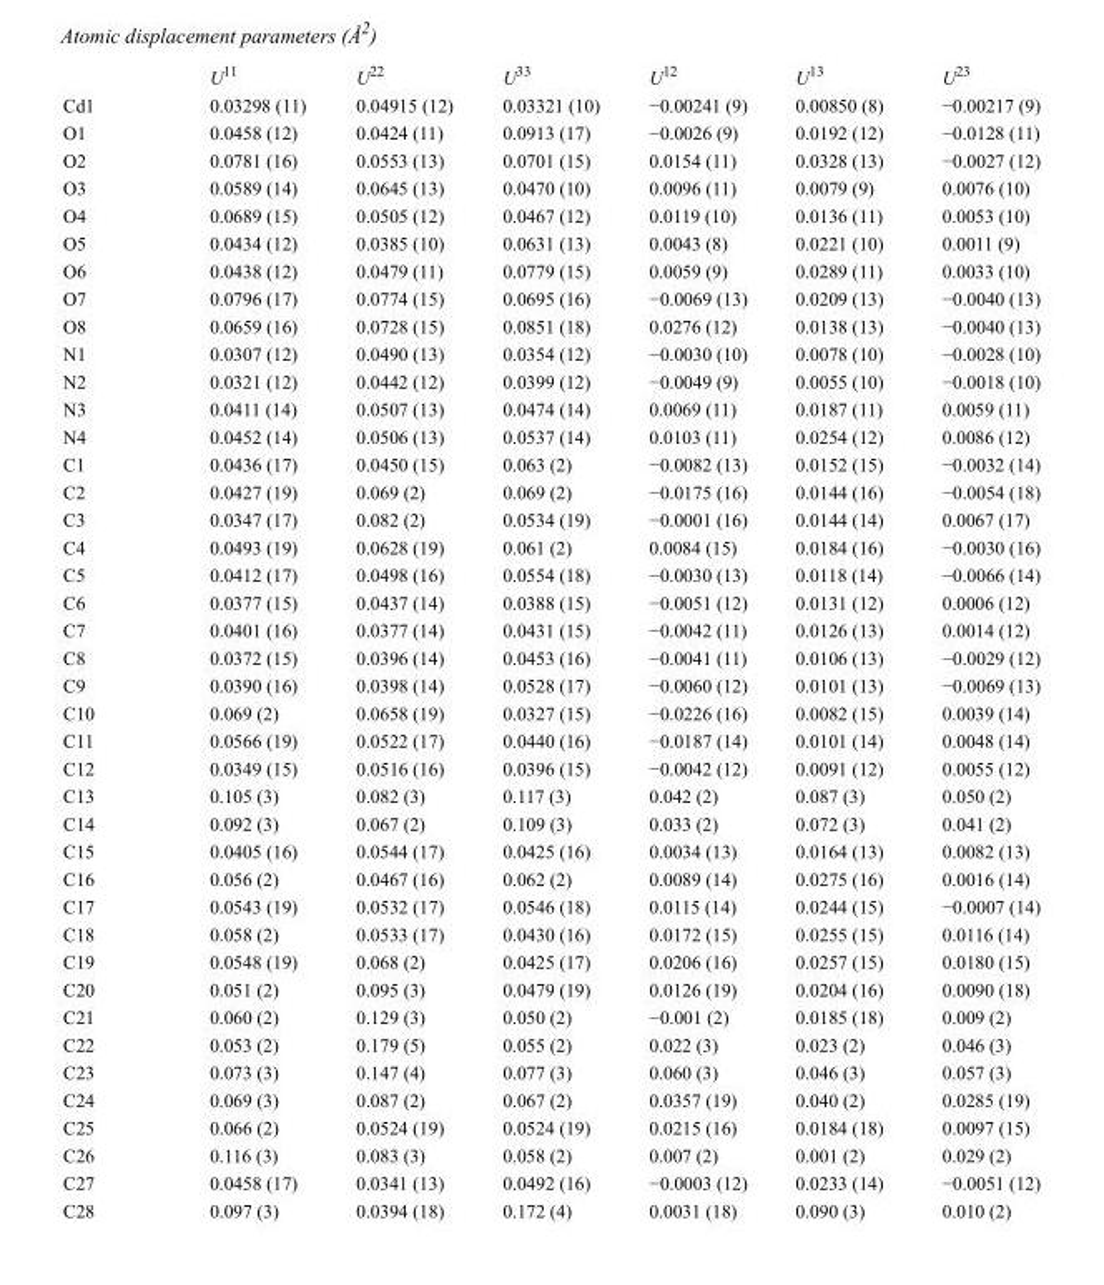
<table><thead><tr><td></td><td>U<sup>11</sup></td><td>U<sup>22</sup></td><td>U<sup>33</sup></td><td>U<sup>12</sup></td><td>U<sup>13</sup></td><td>U<sup>23</sup></td></tr></thead><tbody><tr><td>Cd1</td><td>0.03298 (11)</td><td>0.04915 (12)</td><td>0.03321 (10)</td><td>−0.00241 (9)</td><td>0.00850 (8)</td><td>−0.00217 (9)</td></tr><tr><td>O1</td><td>0.0458 (12)</td><td>0.0424 (11)</td><td>0.0913 (17)</td><td>−0.0026 (9)</td><td>0.0192 (12)</td><td>−0.0128 (11)</td></tr><tr><td>O2</td><td>0.0781 (16)</td><td>0.0553 (13)</td><td>0.0701 (15)</td><td>0.0154 (11)</td><td>0.0328 (13)</td><td>−0.0027 (12)</td></tr><tr><td>O3</td><td>0.0589 (14)</td><td>0.0645 (13)</td><td>0.0470 (10)</td><td>0.0096 (11)</td><td>0.0079 (9)</td><td>0.0076 (10)</td></tr><tr><td>O4</td><td>0.0689 (15)</td><td>0.0505 (12)</td><td>0.0467 (12)</td><td>0.0119 (10)</td><td>0.0136 (11)</td><td>0.0053 (10)</td></tr><tr><td>O5</td><td>0.0434 (12)</td><td>0.0385 (10)</td><td>0.0631 (13)</td><td>0.0043 (8)</td><td>0.0221 (10)</td><td>0.0011 (9)</td></tr><tr><td>O6</td><td>0.0438 (12)</td><td>0.0479 (11)</td><td>0.0779 (15)</td><td>0.0059 (9)</td><td>0.0289 (11)</td><td>0.0033 (10)</td></tr><tr><td>O7</td><td>0.0796 (17)</td><td>0.0774 (15)</td><td>0.0695 (16)</td><td>−0.0069 (13)</td><td>0.0209 (13)</td><td>−0.0040 (13)</td></tr><tr><td>O8</td><td>0.0659 (16)</td><td>0.0728 (15)</td><td>0.0851 (18)</td><td>0.0276 (12)</td><td>0.0138 (13)</td><td>−0.0040 (13)</td></tr><tr><td>N1</td><td>0.0307 (12)</td><td>0.0490 (13)</td><td>0.0354 (12)</td><td>−0.0030 (10)</td><td>0.0078 (10)</td><td>−0.0028 (10)</td></tr><tr><td>N2</td><td>0.0321 (12)</td><td>0.0442 (12)</td><td>0.0399 (12)</td><td>−0.0049 (9)</td><td>0.0055 (10)</td><td>−0.0018 (10)</td></tr><tr><td>N3</td><td>0.0411 (14)</td><td>0.0507 (13)</td><td>0.0474 (14)</td><td>0.0069 (11)</td><td>0.0187 (11)</td><td>0.0059 (11)</td></tr><tr><td>N4</td><td>0.0452 (14)</td><td>0.0506 (13)</td><td>0.0537 (14)</td><td>0.0103 (11)</td><td>0.0254 (12)</td><td>0.0086 (12)</td></tr><tr><td>C1</td><td>0.0436 (17)</td><td>0.0450 (15)</td><td>0.063 (2)</td><td>−0.0082 (13)</td><td>0.0152 (15)</td><td>−0.0032 (14)</td></tr><tr><td>C2</td><td>0.0427 (19)</td><td>0.069 (2)</td><td>0.069 (2)</td><td>−0.0175 (16)</td><td>0.0144 (16)</td><td>−0.0054 (18)</td></tr><tr><td>C3</td><td>0.0347 (17)</td><td>0.082 (2)</td><td>0.0534 (19)</td><td>−0.0001 (16)</td><td>0.0144 (14)</td><td>0.0067 (17)</td></tr><tr><td>C4</td><td>0.0493 (19)</td><td>0.0628 (19)</td><td>0.061 (2)</td><td>0.0084 (15)</td><td>0.0184 (16)</td><td>−0.0030 (16)</td></tr><tr><td>C5</td><td>0.0412 (17)</td><td>0.0498 (16)</td><td>0.0554 (18)</td><td>−0.0030 (13)</td><td>0.0118 (14)</td><td>−0.0066 (14)</td></tr><tr><td>C6</td><td>0.0377 (15)</td><td>0.0437 (14)</td><td>0.0388 (15)</td><td>−0.0051 (12)</td><td>0.0131 (12)</td><td>0.0006 (12)</td></tr><tr><td>C7</td><td>0.0401 (16)</td><td>0.0377 (14)</td><td>0.0431 (15)</td><td>−0.0042 (11)</td><td>0.0126 (13)</td><td>0.0014 (12)</td></tr><tr><td>C8</td><td>0.0372 (15)</td><td>0.0396 (14)</td><td>0.0453 (16)</td><td>−0.0041 (11)</td><td>0.0106 (13)</td><td>−0.0029 (12)</td></tr><tr><td>C9</td><td>0.0390 (16)</td><td>0.0398 (14)</td><td>0.0528 (17)</td><td>−0.0060 (12)</td><td>0.0101 (13)</td><td>−0.0069 (13)</td></tr><tr><td>C10</td><td>0.069 (2)</td><td>0.0658 (19)</td><td>0.0327 (15)</td><td>−0.0226 (16)</td><td>0.0082 (15)</td><td>0.0039 (14)</td></tr><tr><td>C11</td><td>0.0566 (19)</td><td>0.0522 (17)</td><td>0.0440 (16)</td><td>−0.0187 (14)</td><td>0.0101 (14)</td><td>0.0048 (14)</td></tr><tr><td>C12</td><td>0.0349 (15)</td><td>0.0516 (16)</td><td>0.0396 (15)</td><td>−0.0042 (12)</td><td>0.0091 (12)</td><td>0.0055 (12)</td></tr><tr><td>C13</td><td>0.105 (3)</td><td>0.082 (3)</td><td>0.117 (3)</td><td>0.042 (2)</td><td>0.087 (3)</td><td>0.050 (2)</td></tr><tr><td>C14</td><td>0.092 (3)</td><td>0.067 (2)</td><td>0.109 (3)</td><td>0.033 (2)</td><td>0.072 (3)</td><td>0.041 (2)</td></tr><tr><td>C15</td><td>0.0405 (16)</td><td>0.0544 (17)</td><td>0.0425 (16)</td><td>0.0034 (13)</td><td>0.0164 (13)</td><td>0.0082 (13)</td></tr><tr><td>C16</td><td>0.056 (2)</td><td>0.0467 (16)</td><td>0.062 (2)</td><td>0.0089 (14)</td><td>0.0275 (16)</td><td>0.0016 (14)</td></tr><tr><td>C17</td><td>0.0543 (19)</td><td>0.0532 (17)</td><td>0.0546 (18)</td><td>0.0115 (14)</td><td>0.0244 (15)</td><td>−0.0007 (14)</td></tr><tr><td>C18</td><td>0.058 (2)</td><td>0.0533 (17)</td><td>0.0430 (16)</td><td>0.0172 (15)</td><td>0.0255 (15)</td><td>0.0116 (14)</td></tr><tr><td>C19</td><td>0.0548 (19)</td><td>0.068 (2)</td><td>0.0425 (17)</td><td>0.0206 (16)</td><td>0.0257 (15)</td><td>0.0180 (15)</td></tr><tr><td>C20</td><td>0.051 (2)</td><td>0.095 (3)</td><td>0.0479 (19)</td><td>0.0126 (19)</td><td>0.0204 (16)</td><td>0.0090 (18)</td></tr><tr><td>C21</td><td>0.060 (2)</td><td>0.129 (3)</td><td>0.050 (2)</td><td>−0.001 (2)</td><td>0.0185 (18)</td><td>0.009 (2)</td></tr><tr><td>C22</td><td>0.053 (2)</td><td>0.179 (5)</td><td>0.055 (2)</td><td>0.022 (3)</td><td>0.023 (2)</td><td>0.046 (3)</td></tr><tr><td>C23</td><td>0.073 (3)</td><td>0.147 (4)</td><td>0.077 (3)</td><td>0.060 (3)</td><td>0.046 (3)</td><td>0.057 (3)</td></tr><tr><td>C24</td><td>0.069 (3)</td><td>0.087 (2)</td><td>0.067 (2)</td><td>0.0357 (19)</td><td>0.040 (2)</td><td>0.0285 (19)</td></tr><tr><td>C25</td><td>0.066 (2)</td><td>0.0524 (19)</td><td>0.0524 (19)</td><td>0.0215 (16)</td><td>0.0184 (18)</td><td>0.0097 (15)</td></tr><tr><td>C26</td><td>0.116 (3)</td><td>0.083 (3)</td><td>0.058 (2)</td><td>0.007 (2)</td><td>0.001 (2)</td><td>0.029 (2)</td></tr><tr><td>C27</td><td>0.0458 (17)</td><td>0.0341 (13)</td><td>0.0492 (16)</td><td>−0.0003 (12)</td><td>0.0233 (14)</td><td>−0.0051 (12)</td></tr><tr><td>C28</td><td>0.097 (3)</td><td>0.0394 (18)</td><td>0.172 (4)</td><td>0.0031 (18)</td><td>0.090 (3)</td><td>0.010 (2)</td></tr></tbody></table>